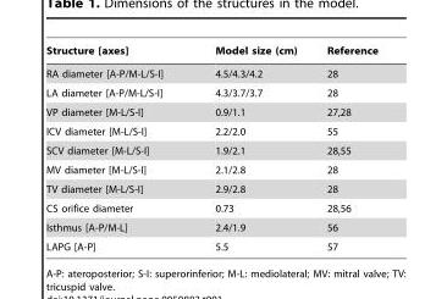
<table><thead><tr><td>Structure [axes]</td><td>Model size (cm)</td><td>Reference</td></tr></thead><tbody><tr><td>RA diameter [A-P/M-L/S-I]</td><td>4.5/4.3/4.2</td><td>28</td></tr><tr><td>LA diameter [A-P/M-L/S-I]</td><td>4.3/3.7/3.7</td><td>28</td></tr><tr><td>VP diameter [M-L/S-I]</td><td>0.9/1.1</td><td>27,28</td></tr><tr><td>ICV diameter [M-L/S-I]</td><td>2.2/2.0</td><td>55</td></tr><tr><td>SCV diameter [M-L/S-I]</td><td>1.9/2.1</td><td>28,55</td></tr><tr><td>MV diameter [M-L/S-I]</td><td>2.1/2.8</td><td>28</td></tr><tr><td>TV diameter [M-L/S-I]</td><td>2.9/2.8</td><td>28</td></tr><tr><td>CS orifice diameter</td><td>0.73</td><td>28,56</td></tr><tr><td>Isthmus [A-P/M-L]</td><td>2.4/1.9</td><td>56</td></tr><tr><td>LAPG [A-P]</td><td>5.5</td><td>57</td></tr></tbody></table>